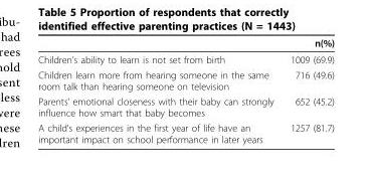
<table><thead><tr><td></td><td>n(%)</td></tr></thead><tbody><tr><td>Children’s ability to learn is not set from birth</td><td>1009 (69.9)</td></tr><tr><td>Children learn more from hearing someone in the same room talk than hearing someone on television</td><td>716 (49.6)</td></tr><tr><td>Parents’ emotional closeness with their baby can strongly influence how smart that baby becomes</td><td>652 (45.2)</td></tr><tr><td>A child’s experiences in the first year of life have an important impact on school performance in later years</td><td>1257 (81.7)</td></tr></tbody></table>